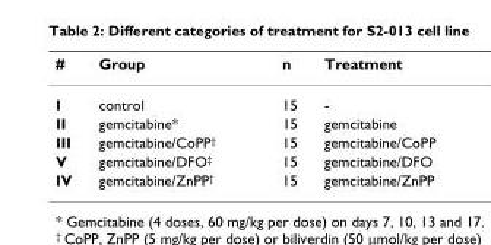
<table><thead><tr><td>#</td><td>Group</td><td>n</td><td>Treatment</td></tr></thead><tbody><tr><td>I</td><td>control</td><td>15</td><td>-</td></tr><tr><td>II</td><td>gemcitabine*</td><td>15</td><td>gemcitabine</td></tr><tr><td>III</td><td>gemcitabine/CoPP<sup>†</sup></td><td>15</td><td>gemcitabine/CoPP</td></tr><tr><td>V</td><td>gemcitabine/DFO<sup>‡</sup></td><td>15</td><td>gemcitabine/DFO</td></tr><tr><td>IV</td><td>gemcitabine/ZnPP<sup>†</sup></td><td>15</td><td>gemcitabine/ZnPP</td></tr></tbody></table>